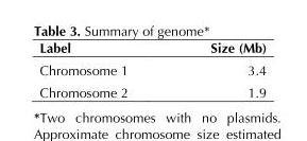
<table><thead><tr><td>Label</td><td>Size (Mb)</td></tr></thead><tbody><tr><td>Chromosome 1</td><td>3.4</td></tr><tr><td>Chromosome 2</td><td>1.9</td></tr></tbody></table>